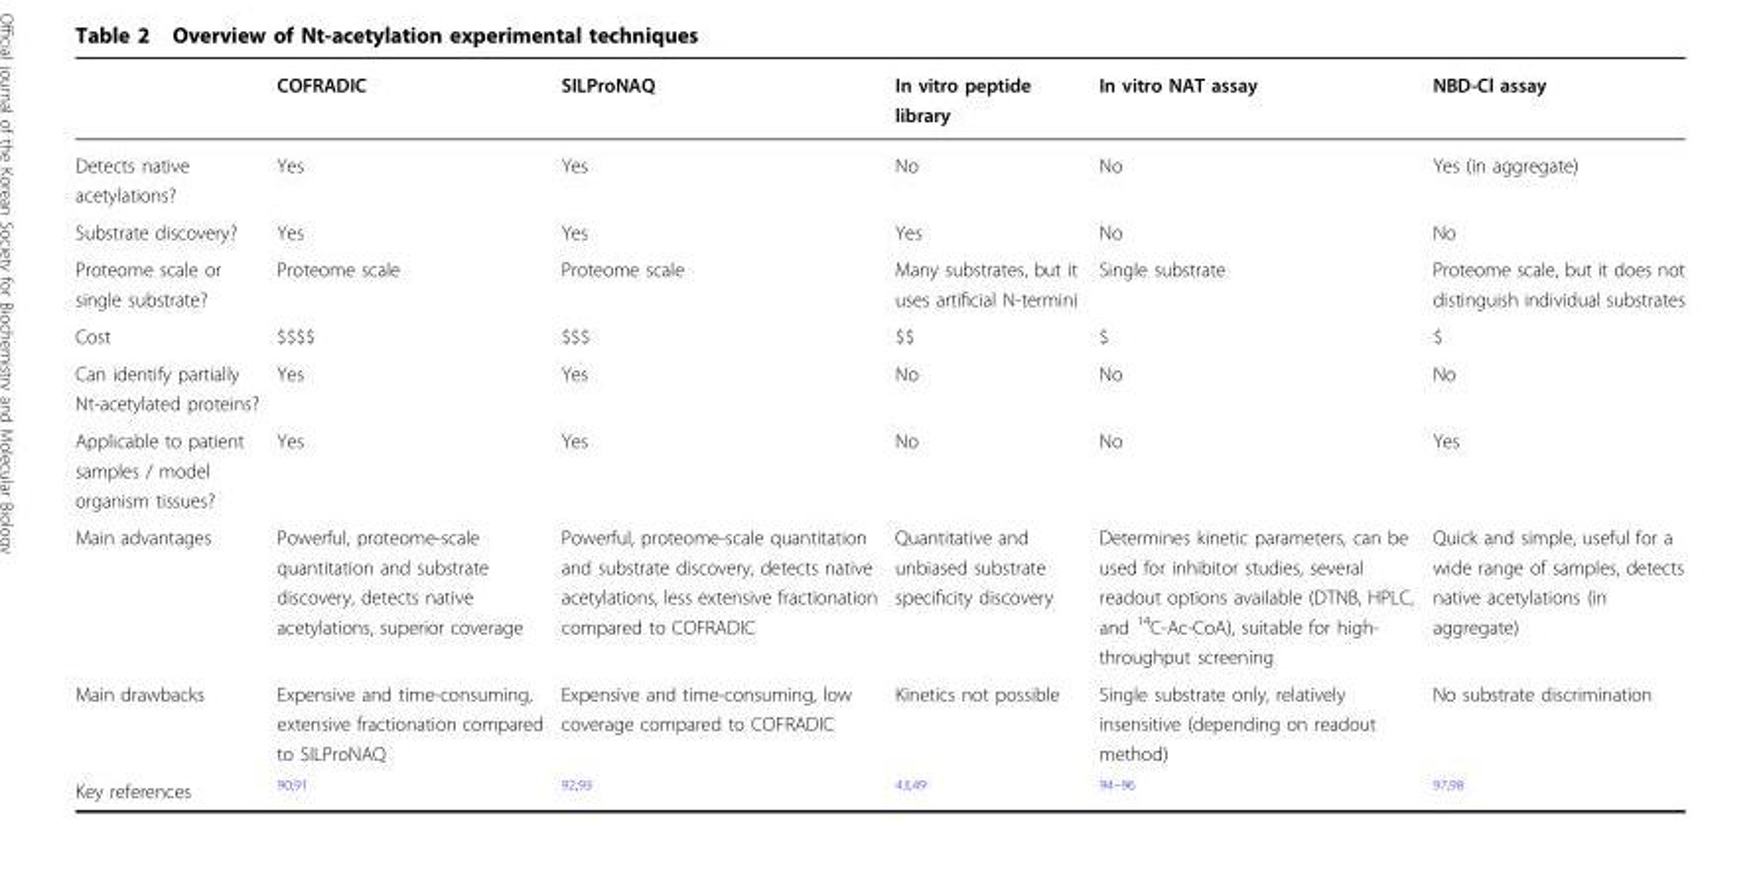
<table><thead><tr><td></td><td>COFRADIC</td><td>SILProNAQ</td><td>In vitro peptide library</td><td>In vitro NAT assay</td><td>NBD-Cl assay</td></tr></thead><tbody><tr><td>Detects native acetylations?</td><td>Yes</td><td>Yes</td><td>No</td><td>No</td><td>Yes (in aggregate)</td></tr><tr><td>Substrate discovery?</td><td>Yes</td><td>Yes</td><td>Yes</td><td>No</td><td>No</td></tr><tr><td>Proteome scale or single substrate?</td><td>Proteome scale</td><td>Proteome scale</td><td>Many substrates, but it uses artificial N-termini</td><td>Single substrate</td><td>Proteome scale, but it does not distinguish individual substrates</td></tr><tr><td>Cost</td><td>$$$$</td><td>$$$</td><td>$$</td><td>$</td><td>$</td></tr><tr><td>Can identify partially Nt-acetylated proteins?</td><td>Yes</td><td>Yes</td><td>No</td><td>No</td><td>No</td></tr><tr><td>Applicable to patient samples / model organism tissues?</td><td>Yes</td><td>Yes</td><td>No</td><td>No</td><td>Yes</td></tr><tr><td>Main advantages</td><td>Powerful, proteome-scale quantitation and substrate discovery, detects native acetylations, superior coverage</td><td>Powerful, proteome-scale quantitation and substrate discovery, detects native acetylations, less extensive fractionation compared to COFRADIC</td><td>Quantitative and unbiased substrate specificity discovery</td><td>Determines kinetic parameters, can be used for inhibitor studies, several readout options available (DTNB, HPLC, and <sup>14</sup>C-Ac-CoA), suitable for high- throughput screening</td><td>Quick and simple, useful for a wide range of samples, detects native acetylations (in aggregate)</td></tr><tr><td>Main drawbacks</td><td>Expensive and time-consuming, extensive fractionation compared to SILProNAQ</td><td>Expensive and time-consuming, low coverage compared to COFRADIC</td><td>Kinetics not possible</td><td>Single substrate only, relatively insensitive (depending on readout method)</td><td>No substrate discrimination</td></tr><tr><td>Key references</td><td><sup>90,91</sup></td><td><sup>92,93</sup></td><td><sup>43,49</sup></td><td><sup>94–96</sup></td><td><sup>97,98</sup></td></tr></tbody></table>